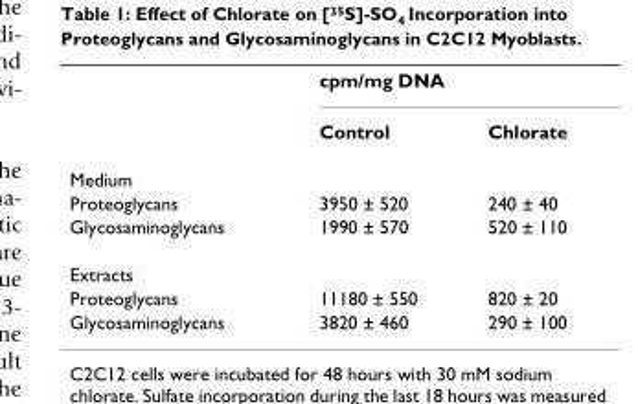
<table><thead><tr><td rowspan="2"></td><td colspan="2">cpm/mg DNA</td></tr><tr><td>Control</td><td>Chlorate</td></tr></thead><tbody><tr><td colspan="3">Medium</td></tr><tr><td>Proteoglycans</td><td>3950 ± 520</td><td>240 ± 40</td></tr><tr><td>Glycosaminoglycans</td><td>1990 ± 570</td><td>520 ± 110</td></tr><tr><td colspan="3">Extracts</td></tr><tr><td>Proteoglycans</td><td>11180 ± 550</td><td>820 ± 20</td></tr><tr><td>Glycosaminoglycans</td><td>3820 ± 460</td><td>290 ± 100</td></tr></tbody></table>